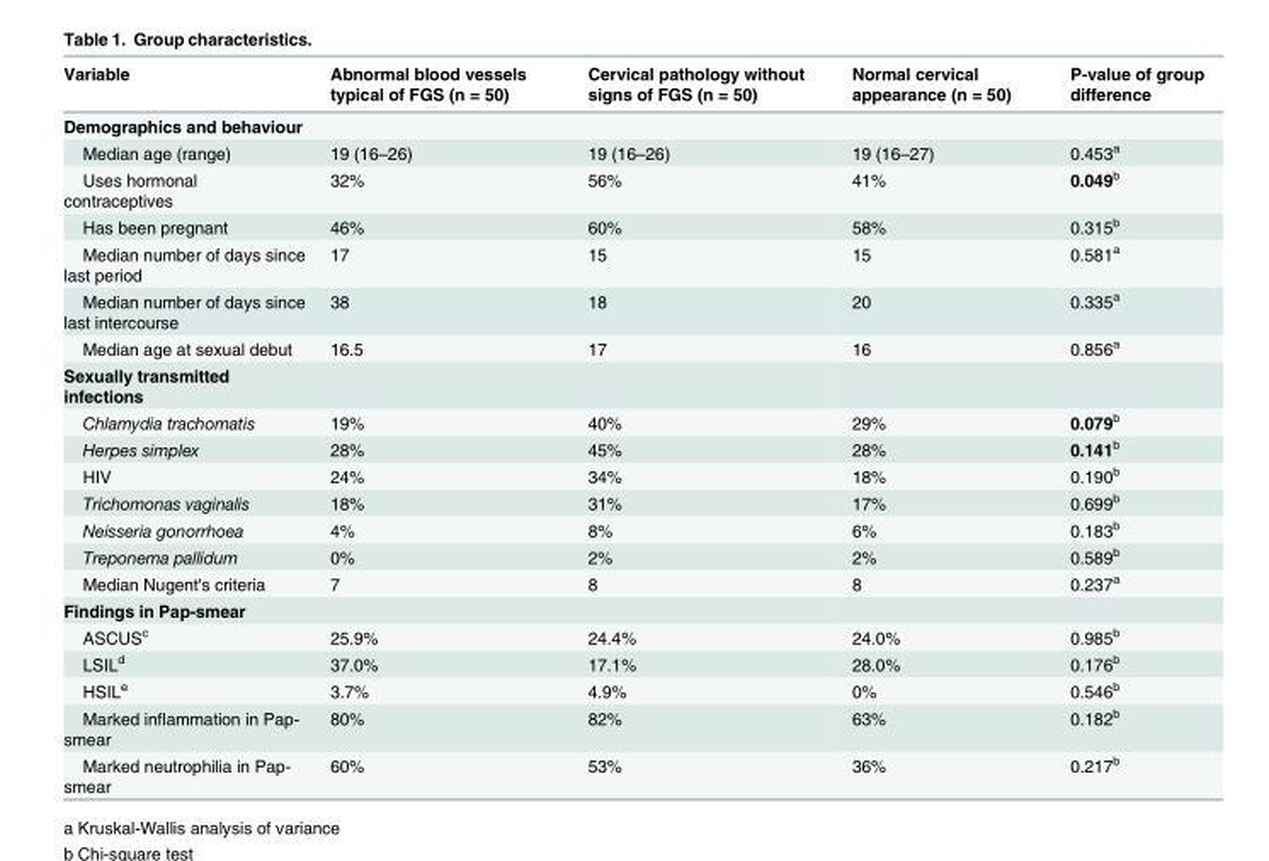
<table><thead><tr><td>Variable</td><td>Abnormal blood vessels typical of FGS (n = 50)</td><td>Cervical pathology without signs of FGS (n = 50)</td><td>Normal cervical appearance (n = 50)</td><td>P-value of group difference</td></tr></thead><tbody><tr><td colspan="5">Demographics and behaviour</td></tr><tr><td>Median age (range)</td><td>19 (16–26)</td><td>19 (16–26)</td><td>19 (16–27)</td><td>0.453<sup>a</sup></td></tr><tr><td>Uses hormonal contraceptives</td><td>32%</td><td>56%</td><td>41%</td><td>0.049<sup>b</sup></td></tr><tr><td>Has been pregnant</td><td>46%</td><td>60%</td><td>58%</td><td>0.315<sup>b</sup></td></tr><tr><td>Median number of days since last period</td><td>17</td><td>15</td><td>15</td><td>0.581<sup>a</sup></td></tr><tr><td>Median number of days since last intercourse</td><td>38</td><td>18</td><td>20</td><td>0.335<sup>a</sup></td></tr><tr><td>Median age at sexual debut</td><td>16.5</td><td>17</td><td>16</td><td>0.856<sup>a</sup></td></tr><tr><td colspan="5">Sexually transmitted infections</td></tr><tr><td>Chlamydia trachomatis</td><td>19%</td><td>40%</td><td>29%</td><td>0.079<sup>b</sup></td></tr><tr><td>Herpes simplex</td><td>28%</td><td>45%</td><td>28%</td><td>0.141<sup>b</sup></td></tr><tr><td>HIV</td><td>24%</td><td>34%</td><td>18%</td><td>0.190<sup>b</sup></td></tr><tr><td>Trichomonas vaginalis</td><td>18%</td><td>31%</td><td>17%</td><td>0.699<sup>b</sup></td></tr><tr><td>Neisseria gonorrhoea</td><td>4%</td><td>8%</td><td>6%</td><td>0.183<sup>b</sup></td></tr><tr><td>Treponema pallidum</td><td>0%</td><td>2%</td><td>2%</td><td>0.589<sup>b</sup></td></tr><tr><td>Median Nugent&#x27;s criteria</td><td>7</td><td>8</td><td>8</td><td>0.237<sup>a</sup></td></tr><tr><td colspan="5">Findings in Pap-smear</td></tr><tr><td>ASCUS<sup>c</sup></td><td>25.9%</td><td>24.4%</td><td>24.0%</td><td>0.985<sup>b</sup></td></tr><tr><td>LSIL<sup>d</sup></td><td>37.0%</td><td>17.1%</td><td>28.0%</td><td>0.176<sup>b</sup></td></tr><tr><td>HSIL<sup>e</sup></td><td>3.7%</td><td>4.9%</td><td>0%</td><td>0.546<sup>b</sup></td></tr><tr><td>Marked inflammation in Pap- smear</td><td>80%</td><td>82%</td><td>63%</td><td>0.182<sup>b</sup></td></tr><tr><td>Marked neutrophilia in Pap- smear</td><td>60%</td><td>53%</td><td>36%</td><td>0.217<sup>b</sup></td></tr></tbody></table>